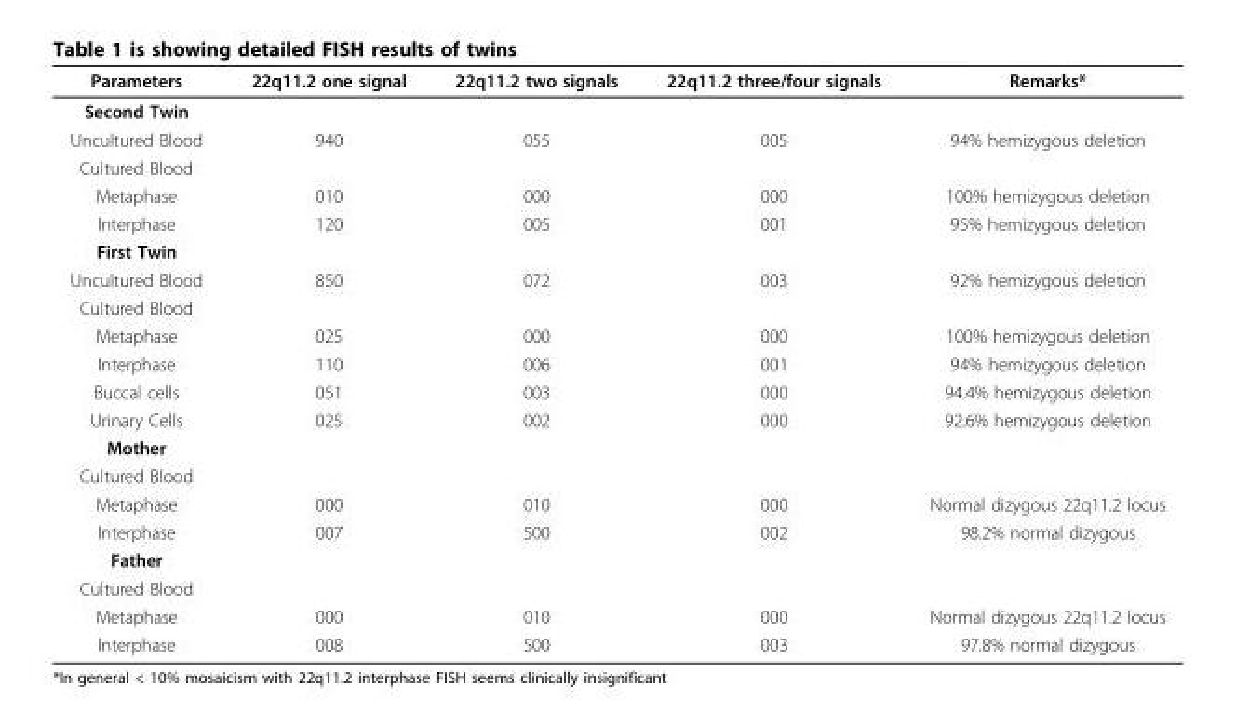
<table><thead><tr><td>Parameters</td><td>22q11.2 one signal</td><td>22q11.2 two signals</td><td>22q11.2 three/four signals</td><td>Remarks*</td></tr></thead><tbody><tr><td colspan="5">Second Twin</td></tr><tr><td>Uncultured Blood</td><td>940</td><td>055</td><td>005</td><td>94% hemizygous deletion</td></tr><tr><td colspan="5">Cultured Blood</td></tr><tr><td>Metaphase</td><td>010</td><td>000</td><td>000</td><td>100% hemizygous deletion</td></tr><tr><td>Interphase</td><td>120</td><td>005</td><td>001</td><td>95% hemizygous deletion</td></tr><tr><td colspan="5">First Twin</td></tr><tr><td>Uncultured Blood</td><td>850</td><td>072</td><td>003</td><td>92% hemizygous deletion</td></tr><tr><td colspan="5">Cultured Blood</td></tr><tr><td>Metaphase</td><td>025</td><td>000</td><td>000</td><td>100% hemizygous deletion</td></tr><tr><td>Interphase</td><td>110</td><td>006</td><td>001</td><td>94% hemizygous deletion</td></tr><tr><td>Buccal cells</td><td>051</td><td>003</td><td>000</td><td>94.4% hemizygous deletion</td></tr><tr><td>Urinary Cells</td><td>025</td><td>002</td><td>000</td><td>92.6% hemizygous deletion</td></tr><tr><td colspan="5">Mother</td></tr><tr><td colspan="5">Cultured Blood</td></tr><tr><td>Metaphase</td><td>000</td><td>010</td><td>000</td><td>Normal dizygous 22q11.2 locus</td></tr><tr><td>Interphase</td><td>007</td><td>500</td><td>002</td><td>98.2% normal dizygous</td></tr><tr><td colspan="5">Father</td></tr><tr><td colspan="5">Cultured Blood</td></tr><tr><td>Metaphase</td><td>000</td><td>010</td><td>000</td><td>Normal dizygous 22q11.2 locus</td></tr><tr><td>Interphase</td><td>008</td><td>500</td><td>003</td><td>97.8% normal dizygous</td></tr></tbody></table>